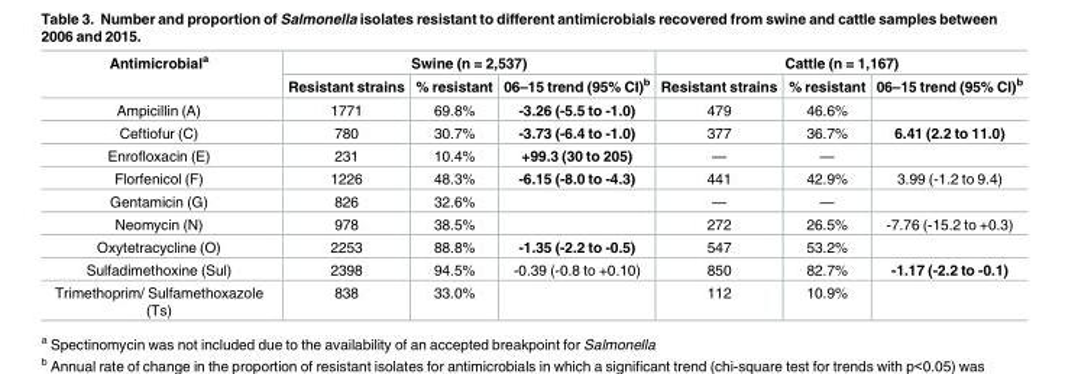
<table><thead><tr><td rowspan="2">Antimicrobial<sup>a</sup></td><td colspan="3">Swine (n = 2,537)</td><td colspan="3">Cattle (n = 1,167)</td></tr><tr><td>Resistant strains</td><td>% resistant</td><td>06–15 trend (95% CI)<sup>b</sup></td><td>Resistant strains</td><td>% resistant</td><td>06–15 trend (95% CI)<sup>b</sup></td></tr></thead><tbody><tr><td>Ampicillin (A)</td><td>1771</td><td>69.8%</td><td>-3.26 (-5.5 to -1.0)</td><td>479</td><td>46.6%</td><td></td></tr><tr><td>Ceftiofur (C)</td><td>780</td><td>30.7%</td><td>-3.73 (-6.4 to -1.0)</td><td>377</td><td>36.7%</td><td>6.41 (2.2 to 11.0)</td></tr><tr><td>Enrofloxacin (E)</td><td>231</td><td>10.4%</td><td>+99.3 (30 to 205)</td><td>—</td><td>—</td><td></td></tr><tr><td>Florfenicol (F)</td><td>1226</td><td>48.3%</td><td>-6.15 (-8.0 to -4.3)</td><td>441</td><td>42.9%</td><td>3.99 (-1.2 to 9.4)</td></tr><tr><td>Gentamicin (G)</td><td>826</td><td>32.6%</td><td></td><td>—</td><td>—</td><td></td></tr><tr><td>Neomycin (N)</td><td>978</td><td>38.5%</td><td></td><td>272</td><td>26.5%</td><td>-7.76 (-15.2 to +0.3)</td></tr><tr><td>Oxytetracycline (O)</td><td>2253</td><td>88.8%</td><td>-1.35 (-2.2 to -0.5)</td><td>547</td><td>53.2%</td><td></td></tr><tr><td>Sulfadimethoxine (Sul)</td><td>2398</td><td>94.5%</td><td>-0.39 (-0.8 to +0.10)</td><td>850</td><td>82.7%</td><td>-1.17 (-2.2 to -0.1)</td></tr><tr><td>Trimethoprim/ Sulfamethoxazole (Ts)</td><td>838</td><td>33.0%</td><td></td><td>112</td><td>10.9%</td><td></td></tr></tbody></table>